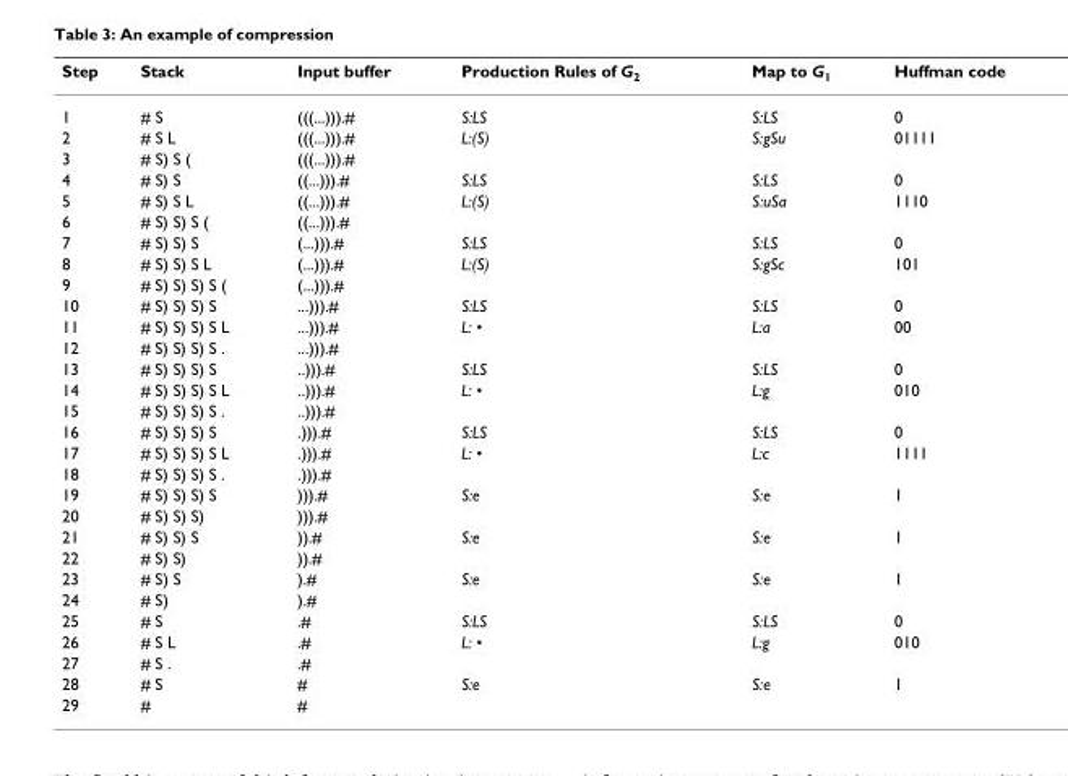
<table><thead><tr><td>Step</td><td>Stack</td><td>Input buffer</td><td>Production Rules of G<sub>2</sub></td><td>Map to G<sub>1</sub></td><td>Huffman code</td></tr></thead><tbody><tr><td>1</td><td># S</td><td>(((...))).#</td><td>S:LS</td><td>S:LS</td><td>0</td></tr><tr><td>2</td><td># S L</td><td>(((...))).#</td><td>L:(S)</td><td>S:gSu</td><td>01111</td></tr><tr><td>3</td><td># S) S (</td><td>(((...))).#</td><td></td><td></td><td></td></tr><tr><td>4</td><td># S) S</td><td>((...))).#</td><td>S:LS</td><td>S:LS</td><td>0</td></tr><tr><td>5</td><td># S) S L</td><td>((...))).#</td><td>L:(S)</td><td>S:uSa</td><td>1110</td></tr><tr><td>6</td><td># S) S) S (</td><td>((...))).#</td><td></td><td></td><td></td></tr><tr><td>7</td><td># S) S) S</td><td>(...))).#</td><td>S:LS</td><td>S:LS</td><td>0</td></tr><tr><td>8</td><td># S) S) S L</td><td>(...))).#</td><td>L:(S)</td><td>S:gSc</td><td>101</td></tr><tr><td>9</td><td># S) S) S) S (</td><td>(...))).#</td><td></td><td></td><td></td></tr><tr><td>10</td><td># S) S) S) S</td><td>...))).#</td><td>S:LS</td><td>S:LS</td><td>0</td></tr><tr><td>11</td><td># S) S) S) S L</td><td>...))).#</td><td>L: •</td><td>L:a</td><td>00</td></tr><tr><td>12</td><td># S) S) S) S .</td><td>...))).#</td><td></td><td></td><td></td></tr><tr><td>13</td><td># S) S) S) S</td><td>..))).#</td><td>S:LS</td><td>S:LS</td><td>0</td></tr><tr><td>14</td><td># S) S) S) S L</td><td>..))).#</td><td>L: •</td><td>L:g</td><td>010</td></tr><tr><td>15</td><td># S) S) S) S .</td><td>..))).#</td><td></td><td></td><td></td></tr><tr><td>16</td><td># S) S) S) S</td><td>.))).#</td><td>S:LS</td><td>S:LS</td><td>0</td></tr><tr><td>17</td><td># S) S) S) S L</td><td>.))).#</td><td>L: •</td><td>L:c</td><td>1111</td></tr><tr><td>18</td><td># S) S) S) S .</td><td>.))).#</td><td></td><td></td><td></td></tr><tr><td>19</td><td># S) S) S) S</td><td>))).#</td><td>S:e</td><td>S:e</td><td>1</td></tr><tr><td>20</td><td># S) S) S)</td><td>))).#</td><td></td><td></td><td></td></tr><tr><td>21</td><td># S) S) S</td><td>)).#</td><td>S:e</td><td>S:e</td><td>1</td></tr><tr><td>22</td><td># S) S)</td><td>)).#</td><td></td><td></td><td></td></tr><tr><td>23</td><td># S) S</td><td>).#</td><td>S:e</td><td>S:e</td><td>1</td></tr><tr><td>24</td><td># S)</td><td>).#</td><td></td><td></td><td></td></tr><tr><td>25</td><td># S</td><td>.#</td><td>S:LS</td><td>S:LS</td><td>0</td></tr><tr><td>26</td><td># S L</td><td>.#</td><td>L: •</td><td>L:g</td><td>010</td></tr><tr><td>27</td><td># S .</td><td>.#</td><td></td><td></td><td></td></tr><tr><td>28</td><td># S</td><td>#</td><td>S:e</td><td>S:e</td><td>1</td></tr><tr><td>29</td><td>#</td><td>#</td><td></td><td></td><td></td></tr></tbody></table>